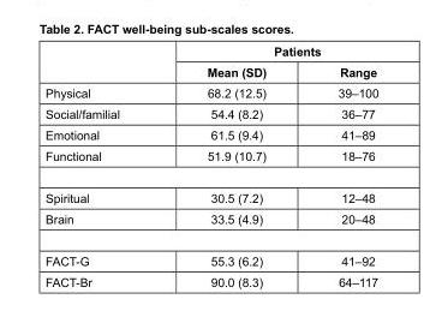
<table><thead><tr><td rowspan="2"></td><td colspan="2">Patients</td></tr><tr><td>Mean (SD)</td><td>Range</td></tr></thead><tbody><tr><td>Physical</td><td>68.2 (12.5)</td><td>39–100</td></tr><tr><td>Social/familial</td><td>54.4 (8.2)</td><td>36–77</td></tr><tr><td>Emotional</td><td>61.5 (9.4)</td><td>41–89</td></tr><tr><td>Functional</td><td>51.9 (10.7)</td><td>18–76</td></tr><tr><td>Spiritual</td><td>30.5 (7.2)</td><td>12–48</td></tr><tr><td>Brain</td><td>33.5 (4.9)</td><td>20–48</td></tr><tr><td>FACT-G</td><td>55.3 (6.2)</td><td>41–92</td></tr><tr><td>FACT-Br</td><td>90.0 (8.3)</td><td>64–117</td></tr></tbody></table>